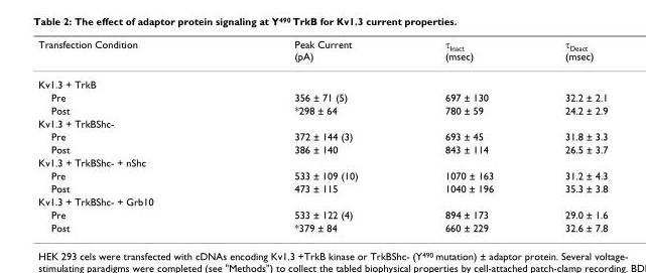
<table><thead><tr><td>Transfection Condition</td><td>Peak Current (pA)</td><td>τ<sub>Inact</sub> (msec)</td><td>τ<sub>Deact</sub> (msec)</td></tr></thead><tbody><tr><td colspan="4">Kv1.3 + TrkB</td></tr><tr><td>Pre</td><td>356 ± 71 (5)</td><td>697 ± 130</td><td>32.2 ± 2.1</td></tr><tr><td>Post</td><td>*298 ± 64</td><td>780 ± 59</td><td>24.2 ± 2.9</td></tr><tr><td colspan="4">Kv1.3 + TrkBShc-</td></tr><tr><td>Pre</td><td>372 ± 144 (3)</td><td>693 ± 45</td><td>31.8 ± 3.3</td></tr><tr><td>Post</td><td>386 ± 140</td><td>843 ± 114</td><td>26.5 ± 3.7</td></tr><tr><td colspan="4">Kv1.3 + TrkBShc- + nShc</td></tr><tr><td>Pre</td><td>533 ± 109 (10)</td><td>1070 ± 163</td><td>31.2 ± 4.3</td></tr><tr><td>Post</td><td>473 ± 115</td><td>1040 ± 196</td><td>35.3 ± 3.8</td></tr><tr><td colspan="4">Kv1.3 + TrkBShc- + Grb10</td></tr><tr><td>Pre</td><td>533 ± 122 (4)</td><td>894 ± 173</td><td>29.0 ± 1.6</td></tr><tr><td>Post</td><td>*379 ± 84</td><td>660 ± 229</td><td>32.6 ± 7.8</td></tr></tbody></table>